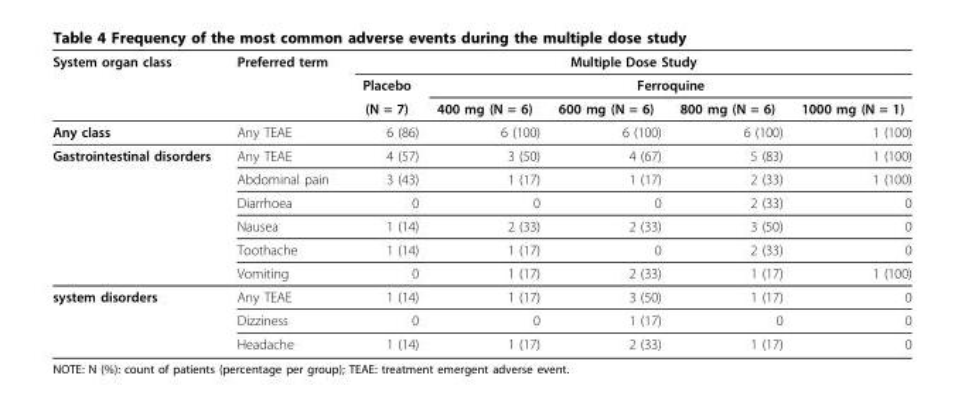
<table><thead><tr><td rowspan="3">System organ class</td><td rowspan="3">Preferred term</td><td colspan="5">Multiple Dose Study</td></tr><tr><td rowspan="2">Placebo (N = 7)</td><td colspan="4">Ferroquine</td></tr><tr><td>400 mg (N = 6)</td><td>600 mg (N = 6)</td><td>800 mg (N = 6)</td><td>1000 mg (N = 1)</td></tr></thead><tbody><tr><td>Any class</td><td>Any TEAE</td><td>6 (86)</td><td>6 (100)</td><td>6 (100)</td><td>6 (100)</td><td>1 (100)</td></tr><tr><td rowspan="6">Gastrointestinal disorders</td><td>Any TEAE</td><td>4 (57)</td><td>3 (50)</td><td>4 (67)</td><td>5 (83)</td><td>1 (100)</td></tr><tr><td>Abdominal pain</td><td>3 (43)</td><td>1 (17)</td><td>1 (17)</td><td>2 (33)</td><td>1 (100)</td></tr><tr><td>Diarrhoea</td><td>0</td><td>0</td><td>0</td><td>2 (33)</td><td>0</td></tr><tr><td>Nausea</td><td>1 (14)</td><td>2 (33)</td><td>2 (33)</td><td>3 (50)</td><td>0</td></tr><tr><td>Toothache</td><td>1 (14)</td><td>1 (17)</td><td>0</td><td>2 (33)</td><td>0</td></tr><tr><td>Vomiting</td><td>0</td><td>1 (17)</td><td>2 (33)</td><td>1 (17)</td><td>1 (100)</td></tr><tr><td rowspan="3">system disorders</td><td>Any TEAE</td><td>1 (14)</td><td>1 (17)</td><td>3 (50)</td><td>1 (17)</td><td>0</td></tr><tr><td>Dizziness</td><td>0</td><td>0</td><td>1 (17)</td><td>0</td><td>0</td></tr><tr><td>Headache</td><td>1 (14)</td><td>1 (17)</td><td>2 (33)</td><td>1 (17)</td><td>0</td></tr></tbody></table>